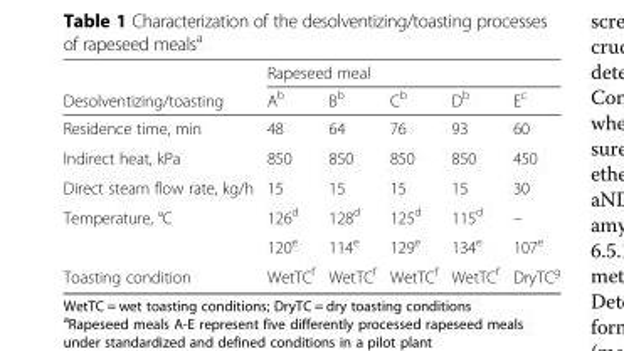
<table><thead><tr><td rowspan="2">Desolventizing/toasting</td><td colspan="5">Rapeseed meal</td></tr><tr><td>A<sup>b</sup></td><td>B<sup>b</sup></td><td>C<sup>b</sup></td><td>D<sup>b</sup></td><td>E<sup>c</sup></td></tr></thead><tbody><tr><td>Residence time, min</td><td>48</td><td>64</td><td>76</td><td>93</td><td>60</td></tr><tr><td>Indirect heat, kPa</td><td>850</td><td>850</td><td>850</td><td>850</td><td>450</td></tr><tr><td>Direct steam flow rate, kg/h</td><td>15</td><td>15</td><td>15</td><td>15</td><td>30</td></tr><tr><td rowspan="2">Temperature, °C</td><td>126<sup>d</sup></td><td>128<sup>d</sup></td><td>125<sup>d</sup></td><td>115<sup>d</sup></td><td>–</td></tr><tr><td>120<sup>e</sup></td><td>114<sup>e</sup></td><td>129<sup>e</sup></td><td>134<sup>e</sup></td><td>107<sup>e</sup></td></tr><tr><td>Toasting condition</td><td>WetTC<sup>f</sup></td><td>WetTC<sup>f</sup></td><td>WetTC<sup>f</sup></td><td>WetTC<sup>f</sup></td><td>DryTC<sup>g</sup></td></tr></tbody></table>